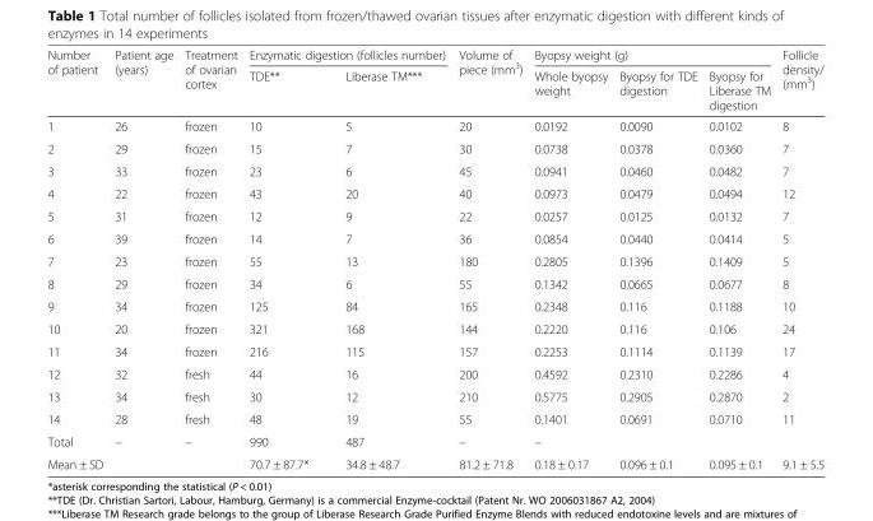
<table><thead><tr><td rowspan="2">Number of patient</td><td rowspan="2">Patient age (years)</td><td rowspan="2">Treatment of ovarian cortex</td><td colspan="2">Enzymatic digestion (follicles number)</td><td rowspan="2">Volume of piece (mm<sup>3</sup>)</td><td colspan="3">Byopsy weight (g)</td><td rowspan="2">Follicle density/ (mm<sup>3</sup>)</td></tr><tr><td>TDE**</td><td>Liberase TM***</td><td>Whole byopsy weight</td><td>Byopsy for TDE digestion</td><td>Byopsy for Liberase TM digestion</td></tr></thead><tbody><tr><td>1</td><td>26</td><td>frozen</td><td>10</td><td>5</td><td>20</td><td>0.0192</td><td>0.0090</td><td>0.0102</td><td>8</td></tr><tr><td>2</td><td>29</td><td>frozen</td><td>15</td><td>7</td><td>30</td><td>0.0738</td><td>0.0378</td><td>0.0360</td><td>7</td></tr><tr><td>3</td><td>33</td><td>frozen</td><td>23</td><td>6</td><td>45</td><td>0.0941</td><td>0.0460</td><td>0.0482</td><td>7</td></tr><tr><td>4</td><td>22</td><td>frozen</td><td>43</td><td>20</td><td>40</td><td>0.0973</td><td>0.0479</td><td>0.0494</td><td>12</td></tr><tr><td>5</td><td>31</td><td>frozen</td><td>12</td><td>9</td><td>22</td><td>0.0257</td><td>0.0125</td><td>0.0132</td><td>7</td></tr><tr><td>6</td><td>39</td><td>frozen</td><td>14</td><td>7</td><td>36</td><td>0.0854</td><td>0.0440</td><td>0.0414</td><td>5</td></tr><tr><td>7</td><td>23</td><td>frozen</td><td>55</td><td>13</td><td>180</td><td>0.2805</td><td>0.1396</td><td>0.1409</td><td>5</td></tr><tr><td>8</td><td>29</td><td>frozen</td><td>34</td><td>6</td><td>55</td><td>0.1342</td><td>0.0665</td><td>0.0677</td><td>8</td></tr><tr><td>9</td><td>34</td><td>frozen</td><td>125</td><td>84</td><td>165</td><td>0.2348</td><td>0.116</td><td>0.1188</td><td>10</td></tr><tr><td>10</td><td>20</td><td>frozen</td><td>321</td><td>168</td><td>144</td><td>0.2220</td><td>0.116</td><td>0.106</td><td>24</td></tr><tr><td>11</td><td>34</td><td>frozen</td><td>216</td><td>115</td><td>157</td><td>0.2253</td><td>0.1114</td><td>0.1139</td><td>17</td></tr><tr><td>12</td><td>32</td><td>fresh</td><td>44</td><td>16</td><td>200</td><td>0.4592</td><td>0.2310</td><td>0.2286</td><td>4</td></tr><tr><td>13</td><td>34</td><td>fresh</td><td>30</td><td>12</td><td>210</td><td>0.5775</td><td>0.2905</td><td>0.2870</td><td>2</td></tr><tr><td>14</td><td>28</td><td>fresh</td><td>48</td><td>19</td><td>55</td><td>0.1401</td><td>0.0691</td><td>0.0710</td><td>11</td></tr><tr><td>Total</td><td>–</td><td>–</td><td>990</td><td>487</td><td>–</td><td>–</td><td></td><td></td><td></td></tr><tr><td>Mean ± SD</td><td></td><td></td><td>70.7 ± 87.7*</td><td>34.8 ± 48.7</td><td>81.2 ± 71.8</td><td>0.18 ± 0.17</td><td>0.096 ± 0.1</td><td>0.095 ± 0.1</td><td>9.1 ± 5.5</td></tr></tbody></table>